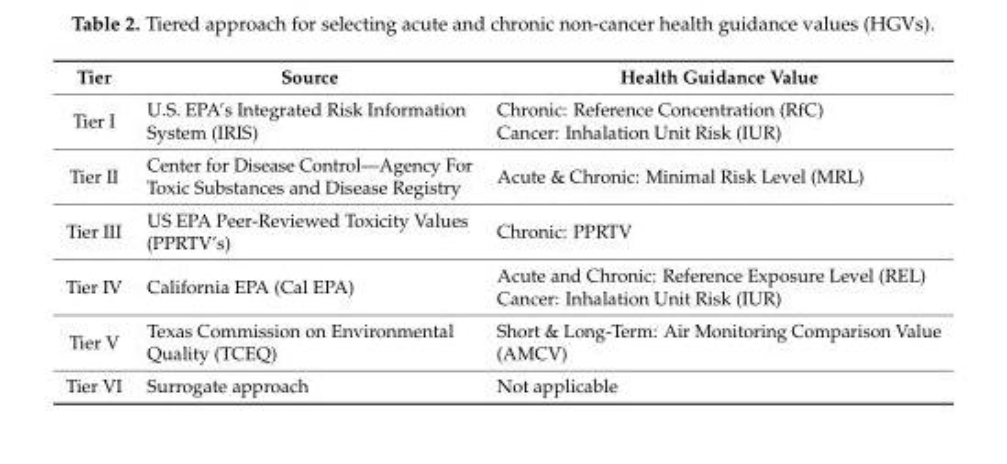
<table><thead><tr><td>Tier</td><td>Source</td><td>Health Guidance Value</td></tr></thead><tbody><tr><td>Tier I</td><td>U.S. EPA’s Integrated Risk Information System (IRIS)</td><td>Chronic: Reference Concentration (RfC) Cancer: Inhalation Unit Risk (IUR)</td></tr><tr><td>Tier II</td><td>Center for Disease Control—Agency For Toxic Substances and Disease Registry</td><td>Acute &amp; Chronic: Minimal Risk Level (MRL)</td></tr><tr><td>Tier III</td><td>US EPA Peer-Reviewed Toxicity Values (PPRTV’s)</td><td>Chronic: PPRTV</td></tr><tr><td>Tier IV</td><td>California EPA (Cal EPA)</td><td>Acute and Chronic: Reference Exposure Level (REL) Cancer: Inhalation Unit Risk (IUR)</td></tr><tr><td>Tier V</td><td>Texas Commission on Environmental Quality (TCEQ)</td><td>Short &amp; Long-Term: Air Monitoring Comparison Value (AMCV)</td></tr><tr><td>Tier VI</td><td>Surrogate approach</td><td>Not applicable</td></tr></tbody></table>